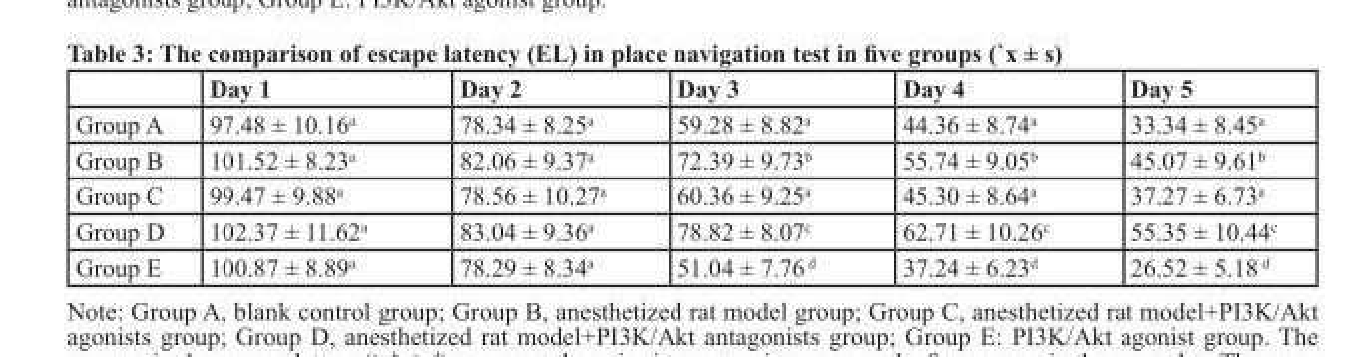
<table><thead><tr><td></td><td>Day 1</td><td>Day 2</td><td>Day 3</td><td>Day 4</td><td>Day 5</td></tr></thead><tbody><tr><td>Group A</td><td>97.48 ± 10.16<sup>a</sup></td><td>78.34 ± 8.25<sup>a</sup></td><td>59.28 ± 8.82<sup>a</sup></td><td>44.36 ± 8.74<sup>a</sup></td><td>33.34 ± 8.45<sup>a</sup></td></tr><tr><td>Group B</td><td>101.52 ± 8.23<sup>a</sup></td><td>82.06 ± 9.37<sup>a</sup></td><td>72.39 ± 9.73<sup>b</sup></td><td>55.74 ± 9.05<sup>b</sup></td><td>45.07 ± 9.61<sup>b</sup></td></tr><tr><td>Group C</td><td>99.47 ± 9.88<sup>a</sup></td><td>78.56 ± 10.27<sup>a</sup></td><td>60.36 ± 9.25<sup>a</sup></td><td>45.30 ± 8.64<sup>a</sup></td><td>37.27 ± 6.73<sup>a</sup></td></tr><tr><td>Group D</td><td>102.37 ± 11.62<sup>a</sup></td><td>83.04 ± 9.36<sup>a</sup></td><td>78.82 ± 8.07<sup>c</sup></td><td>62.71 ± 10.26<sup>c</sup></td><td>55.35 ± 10.44<sup>c</sup></td></tr><tr><td>Group E</td><td>100.87 ± 8.89<sup>a</sup></td><td>78.29 ± 8.34<sup>a</sup></td><td>51.04 ± 7.76 <sup>d</sup></td><td>37.24 ± 6.23<sup>d</sup></td><td>26.52 ± 5.18 <sup>d</sup></td></tr></tbody></table>